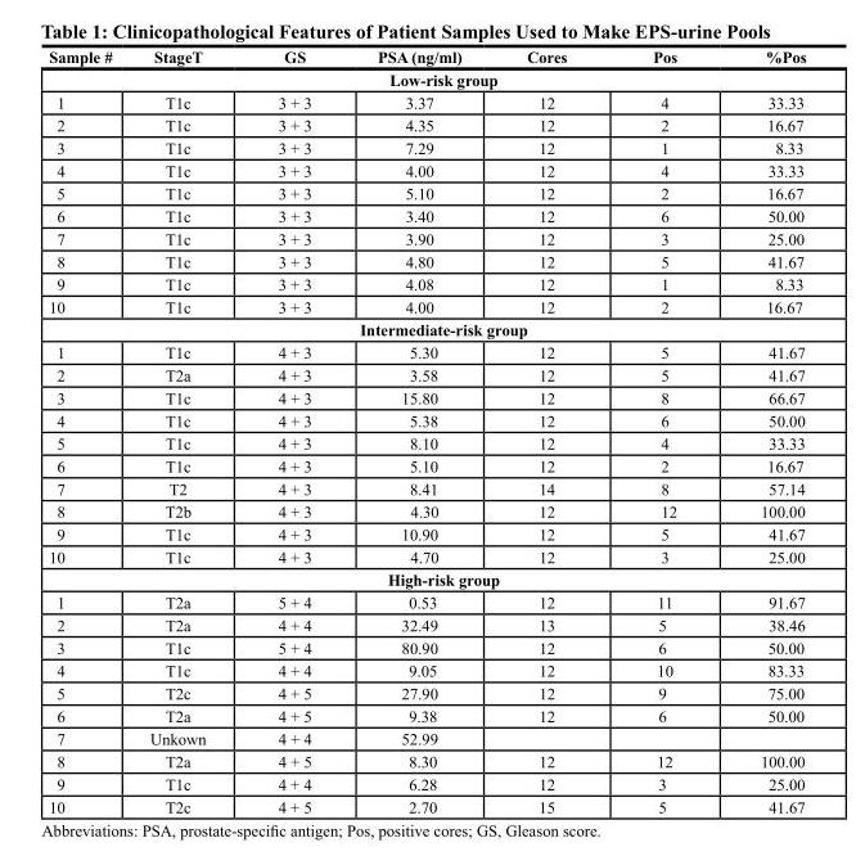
<table><thead><tr><td>sample #</td><td>staget</td><td>Gs</td><td>PsA (ng/ml)</td><td>cores</td><td>Pos</td><td>%Pos</td></tr></thead><tbody><tr><td colspan="7">Low-risk group</td></tr><tr><td>1</td><td>T1c</td><td>3 + 3</td><td>3.37</td><td>12</td><td>4</td><td>33.33</td></tr><tr><td>2</td><td>T1c</td><td>3 + 3</td><td>4.35</td><td>12</td><td>2</td><td>16.67</td></tr><tr><td>3</td><td>T1c</td><td>3 + 3</td><td>7.29</td><td>12</td><td>1</td><td>8.33</td></tr><tr><td>4</td><td>T1c</td><td>3 + 3</td><td>4.00</td><td>12</td><td>4</td><td>33.33</td></tr><tr><td>5</td><td>T1c</td><td>3 + 3</td><td>5.10</td><td>12</td><td>2</td><td>16.67</td></tr><tr><td>6</td><td>T1c</td><td>3 + 3</td><td>3.40</td><td>12</td><td>6</td><td>50.00</td></tr><tr><td>7</td><td>T1c</td><td>3 + 3</td><td>3.90</td><td>12</td><td>3</td><td>25.00</td></tr><tr><td>8</td><td>T1c</td><td>3 + 3</td><td>4.80</td><td>12</td><td>5</td><td>41.67</td></tr><tr><td>9</td><td>T1c</td><td>3 + 3</td><td>4.08</td><td>12</td><td>1</td><td>8.33</td></tr><tr><td>10</td><td>T1c</td><td>3 + 3</td><td>4.00</td><td>12</td><td>2</td><td>16.67</td></tr><tr><td colspan="7">Intermediate-risk group</td></tr><tr><td>1</td><td>T1c</td><td>4 + 3</td><td>5.30</td><td>12</td><td>5</td><td>41.67</td></tr><tr><td>2</td><td>T2a</td><td>4 + 3</td><td>3.58</td><td>12</td><td>5</td><td>41.67</td></tr><tr><td>3</td><td>T1c</td><td>4 + 3</td><td>15.80</td><td>12</td><td>8</td><td>66.67</td></tr><tr><td>4</td><td>T1c</td><td>4 + 3</td><td>5.38</td><td>12</td><td>6</td><td>50.00</td></tr><tr><td>5</td><td>T1c</td><td>4 + 3</td><td>8.10</td><td>12</td><td>4</td><td>33.33</td></tr><tr><td>6</td><td>T1c</td><td>4 + 3</td><td>5.10</td><td>12</td><td>2</td><td>16.67</td></tr><tr><td>7</td><td>T2</td><td>4 + 3</td><td>8.41</td><td>14</td><td>8</td><td>57.14</td></tr><tr><td>8</td><td>T2b</td><td>4 + 3</td><td>4.30</td><td>12</td><td>12</td><td>100.00</td></tr><tr><td>9</td><td>T1c</td><td>4 + 3</td><td>10.90</td><td>12</td><td>5</td><td>41.67</td></tr><tr><td>10</td><td>T1c</td><td>4 + 3</td><td>4.70</td><td>12</td><td>3</td><td>25.00</td></tr><tr><td colspan="7">High-risk group</td></tr><tr><td>1</td><td>T2a</td><td>5 + 4</td><td>0.53</td><td>12</td><td>11</td><td>91.67</td></tr><tr><td>2</td><td>T2a</td><td>4 + 4</td><td>32.49</td><td>13</td><td>5</td><td>38.46</td></tr><tr><td>3</td><td>T1c</td><td>5 + 4</td><td>80.90</td><td>12</td><td>6</td><td>50.00</td></tr><tr><td>4</td><td>T1c</td><td>4 + 4</td><td>9.05</td><td>12</td><td>10</td><td>83.33</td></tr><tr><td>5</td><td>T2c</td><td>4 + 5</td><td>27.90</td><td>12</td><td>9</td><td>75.00</td></tr><tr><td>6</td><td>T2a</td><td>4 + 5</td><td>9.38</td><td>12</td><td>6</td><td>50.00</td></tr><tr><td>7</td><td>Unkown</td><td>4 + 4</td><td>52.99</td><td></td><td></td><td></td></tr><tr><td>8</td><td>T2a</td><td>4 + 5</td><td>8.30</td><td>12</td><td>12</td><td>100.00</td></tr><tr><td>9</td><td>T1c</td><td>4 + 4</td><td>6.28</td><td>12</td><td>3</td><td>25.00</td></tr><tr><td>10</td><td>T2c</td><td>4 + 5</td><td>2.70</td><td>15</td><td>5</td><td>41.67</td></tr></tbody></table>